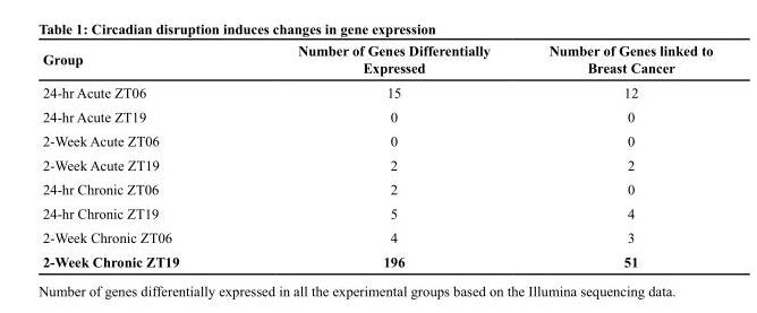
<table><thead><tr><td>Group</td><td>Number of Genes Differentially Expressed</td><td>Number of Genes linked to Breast Cancer</td></tr></thead><tbody><tr><td>24-hr Acute ZT06</td><td>15</td><td>12</td></tr><tr><td>24-hr Acute ZT19</td><td>0</td><td>0</td></tr><tr><td>2-Week Acute ZT06</td><td>0</td><td>0</td></tr><tr><td>2-Week Acute ZT19</td><td>2</td><td>2</td></tr><tr><td>24-hr Chronic ZT06</td><td>2</td><td>0</td></tr><tr><td>24-hr Chronic ZT19</td><td>5</td><td>4</td></tr><tr><td>2-Week Chronic ZT06</td><td>4</td><td>3</td></tr><tr><td>2-Week Chronic ZT19</td><td>196</td><td>51</td></tr></tbody></table>